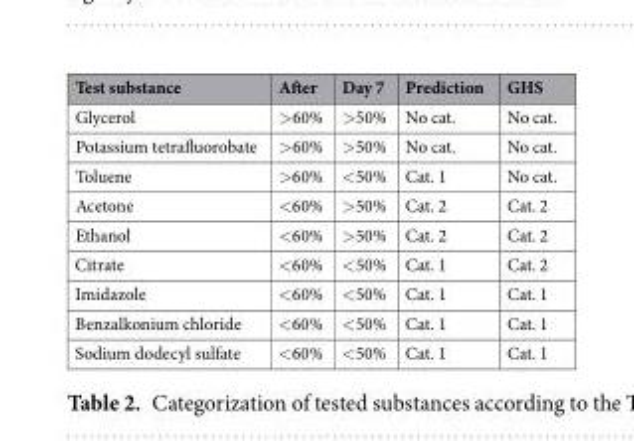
<table><thead><tr><td>Test substance</td><td>After</td><td>Day 7</td><td>Prediction</td><td>GHS</td></tr></thead><tbody><tr><td>Glycerol</td><td>&gt;60%</td><td>&gt;50%</td><td>No cat.</td><td>No cat.</td></tr><tr><td>Potassium tetrafluorobate</td><td>&gt;60%</td><td>&gt;50%</td><td>No cat.</td><td>No cat.</td></tr><tr><td>Toluene</td><td>&gt;60%</td><td>&lt;50%</td><td>Cat. 1</td><td>No cat.</td></tr><tr><td>Acetone</td><td>&lt;60%</td><td>&gt;50%</td><td>Cat. 2</td><td>Cat. 2</td></tr><tr><td>Ethanol</td><td>&lt;60%</td><td>&gt;50%</td><td>Cat. 2</td><td>Cat. 2</td></tr><tr><td>Citrate</td><td>&lt;60%</td><td>&lt;50%</td><td>Cat. 1</td><td>Cat. 2</td></tr><tr><td>Imidazole</td><td>&lt;60%</td><td>&lt;50%</td><td>Cat. 1</td><td>Cat. 1</td></tr><tr><td>Benzalkonium chloride</td><td>&lt;60%</td><td>&lt;50%</td><td>Cat. 1</td><td>Cat. 1</td></tr><tr><td>Sodium dodecyl sulfate</td><td>&lt;60%</td><td>&lt;50%</td><td>Cat. 1</td><td>Cat. 1</td></tr></tbody></table>